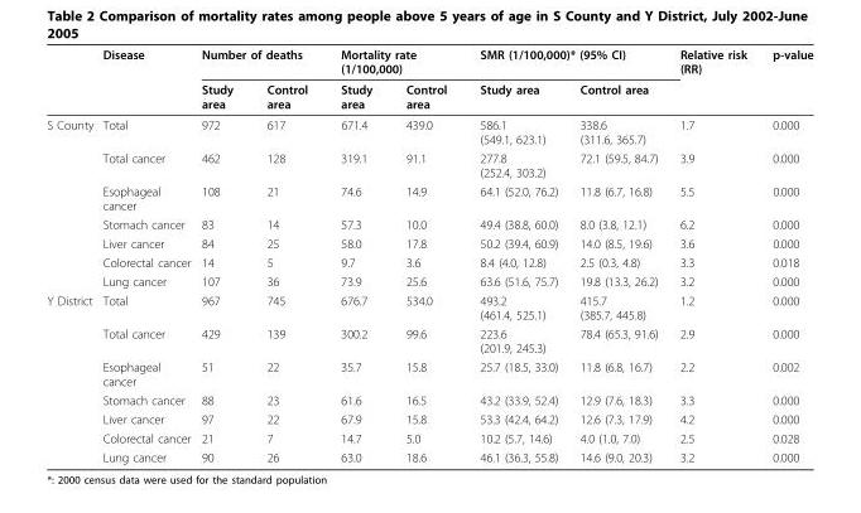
<table><thead><tr><td rowspan="2"></td><td rowspan="2">Disease</td><td colspan="2">Number of deaths</td><td colspan="2">Mortality rate (1/100,000)</td><td colspan="2">SMR (1/100,000)* (95% CI)</td><td rowspan="2">Relative risk (RR)</td><td rowspan="2">p-value</td></tr><tr><td>Study area</td><td>Control area</td><td>Study area</td><td>Control area</td><td>Study area</td><td>Control area</td></tr></thead><tbody><tr><td rowspan="7">S County</td><td>Total</td><td>972</td><td>617</td><td>671.4</td><td>439.0</td><td>586.1 (549.1, 623.1)</td><td>338.6 (311.6, 365.7)</td><td>1.7</td><td>0.000</td></tr><tr><td>Total cancer</td><td>462</td><td>128</td><td>319.1</td><td>91.1</td><td>277.8 (252.4, 303.2)</td><td>72.1 (59.5, 84.7)</td><td>3.9</td><td>0.000</td></tr><tr><td>Esophageal cancer</td><td>108</td><td>21</td><td>74.6</td><td>14.9</td><td>64.1 (52.0, 76.2)</td><td>11.8 (6.7, 16.8)</td><td>5.5</td><td>0.000</td></tr><tr><td>Stomach cancer</td><td>83</td><td>14</td><td>57.3</td><td>10.0</td><td>49.4 (38.8, 60.0)</td><td>8.0 (3.8, 12.1)</td><td>6.2</td><td>0.000</td></tr><tr><td>Liver cancer</td><td>84</td><td>25</td><td>58.0</td><td>17.8</td><td>50.2 (39.4, 60.9)</td><td>14.0 (8.5, 19.6)</td><td>3.6</td><td>0.000</td></tr><tr><td>Colorectal cancer</td><td>14</td><td>5</td><td>9.7</td><td>3.6</td><td>8.4 (4.0, 12.8)</td><td>2.5 (0.3, 4.8)</td><td>3.3</td><td>0.018</td></tr><tr><td>Lung cancer</td><td>107</td><td>36</td><td>73.9</td><td>25.6</td><td>63.6 (51.6, 75.7)</td><td>19.8 (13.3, 26.2)</td><td>3.2</td><td>0.000</td></tr><tr><td rowspan="7">Y District</td><td>Total</td><td>967</td><td>745</td><td>676.7</td><td>534.0</td><td>493.2 (461.4, 525.1)</td><td>415.7 (385.7, 445.8)</td><td>1.2</td><td>0.000</td></tr><tr><td>Total cancer</td><td>429</td><td>139</td><td>300.2</td><td>99.6</td><td>223.6 (201.9, 245.3)</td><td>78.4 (65.3, 91.6)</td><td>2.9</td><td>0.000</td></tr><tr><td>Esophageal cancer</td><td>51</td><td>22</td><td>35.7</td><td>15.8</td><td>25.7 (18.5, 33.0)</td><td>11.8 (6.8, 16.7)</td><td>2.2</td><td>0.002</td></tr><tr><td>Stomach cancer</td><td>88</td><td>23</td><td>61.6</td><td>16.5</td><td>43.2 (33.9, 52.4)</td><td>12.9 (7.6, 18.3)</td><td>3.3</td><td>0.000</td></tr><tr><td>Liver cancer</td><td>97</td><td>22</td><td>67.9</td><td>15.8</td><td>53.3 (42.4, 64.2)</td><td>12.6 (7.3, 17.9)</td><td>4.2</td><td>0.000</td></tr><tr><td>Colorectal cancer</td><td>21</td><td>7</td><td>14.7</td><td>5.0</td><td>10.2 (5.7, 14.6)</td><td>4.0 (1.0, 7.0)</td><td>2.5</td><td>0.028</td></tr><tr><td>Lung cancer</td><td>90</td><td>26</td><td>63.0</td><td>18.6</td><td>46.1 (36.3, 55.8)</td><td>14.6 (9.0, 20.3)</td><td>3.2</td><td>0.000</td></tr></tbody></table>